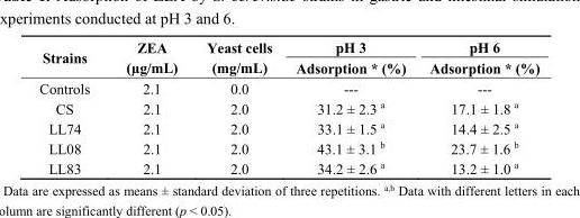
<table><thead><tr><td rowspan="2">Strains</td><td rowspan="2">ZEA (µg/mL)</td><td rowspan="2">Yeast cells (mg/mL)</td><td rowspan="2">pH 3 Adsorption * (%)</td><td rowspan="2">pH 6 Adsorption * (%)</td></tr><tr></tr></thead><tbody><tr><td>Controls</td><td>2.1</td><td>0.0</td><td>---</td><td>---</td></tr><tr><td>CS</td><td>2.1</td><td>2.0</td><td>31.2 ± 2.3 <sup>a</sup></td><td>17.1 ± 1.8 <sup>a</sup></td></tr><tr><td>LL74</td><td>2.1</td><td>2.0</td><td>33.1 ± 1.5 <sup>a</sup></td><td>14.4 ± 2.5 <sup>a</sup></td></tr><tr><td>LL08</td><td>2.1</td><td>2.0</td><td>43.1 ± 3.1 <sup>b</sup></td><td>23.7 ± 1.6 <sup>b</sup></td></tr><tr><td>LL83</td><td>2.1</td><td>2.0</td><td>34.2 ± 2.6 <sup>a</sup></td><td>13.2 ± 1.0 <sup>a</sup></td></tr></tbody></table>